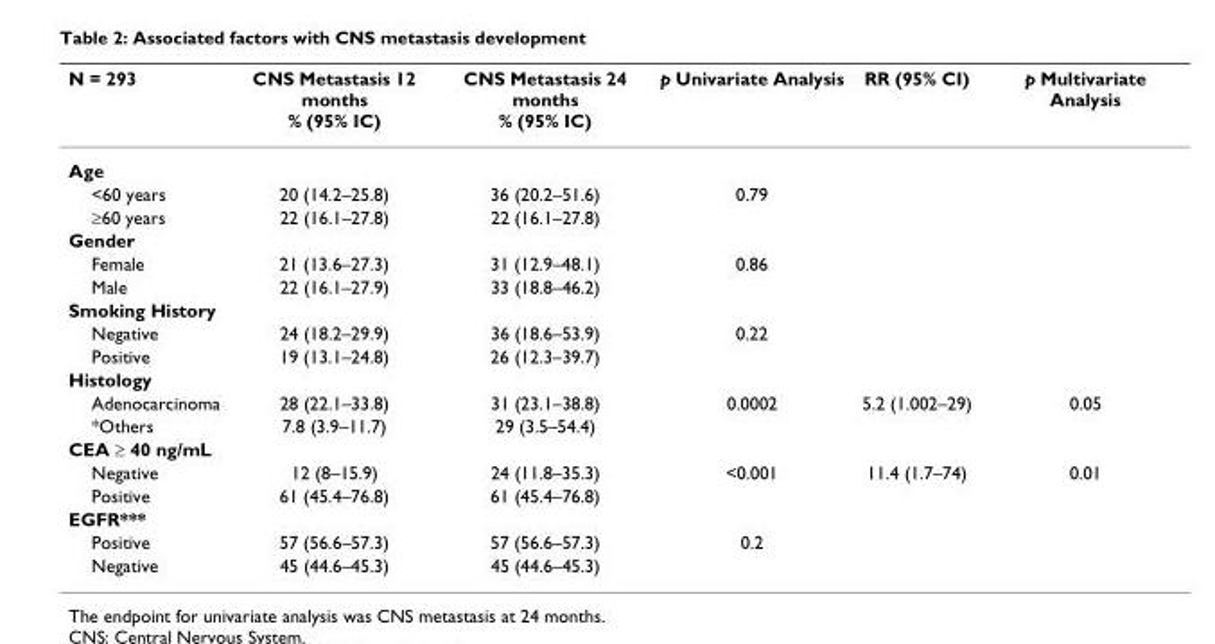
<table><thead><tr><td>N = 293</td><td>CNS Metastasis 12 months % (95% IC)</td><td>CNS Metastasis 24 months % (95% IC)</td><td>p Univariate Analysis</td><td>RR (95% CI)</td><td>p Multivariate Analysis</td></tr></thead><tbody><tr><td colspan="6">Age</td></tr><tr><td>&lt;60 years</td><td>20 (14.2–25.8)</td><td>36 (20.2–51.6)</td><td>0.79</td><td></td><td></td></tr><tr><td>≥60 years</td><td>22 (16.1–27.8)</td><td>22 (16.1–27.8)</td><td></td><td></td><td></td></tr><tr><td colspan="6">Gender</td></tr><tr><td>Female</td><td>21 (13.6–27.3)</td><td>31 (12.9–48.1)</td><td>0.86</td><td></td><td></td></tr><tr><td>Male</td><td>22 (16.1–27.9)</td><td>33 (18.8–46.2)</td><td></td><td></td><td></td></tr><tr><td colspan="6">Smoking History</td></tr><tr><td>Negative</td><td>24 (18.2–29.9)</td><td>36 (18.6–53.9)</td><td>0.22</td><td></td><td></td></tr><tr><td>Positive</td><td>19 (13.1–24.8)</td><td>26 (12.3–39.7)</td><td></td><td></td><td></td></tr><tr><td colspan="6">Histology</td></tr><tr><td>Adenocarcinoma</td><td>28 (22.1–33.8)</td><td>31 (23.1–38.8)</td><td>0.0002</td><td>5.2 (1.002–29)</td><td>0.05</td></tr><tr><td>*Others</td><td>7.8 (3.9–11.7)</td><td>29 (3.5–54.4)</td><td></td><td></td><td></td></tr><tr><td colspan="6">CEA ≥ 40 ng/mL</td></tr><tr><td>Negative</td><td>12 (8–15.9)</td><td>24 (11.8–35.3)</td><td>&lt;0.001</td><td>11.4 (1.7–74)</td><td>0.01</td></tr><tr><td>Positive</td><td>61 (45.4–76.8)</td><td>61 (45.4–76.8)</td><td></td><td></td><td></td></tr><tr><td colspan="6">EGFR***</td></tr><tr><td>Positive</td><td>57 (56.6–57.3)</td><td>57 (56.6–57.3)</td><td>0.2</td><td></td><td></td></tr><tr><td>Negative</td><td>45 (44.6–45.3)</td><td>45 (44.6–45.3)</td><td></td><td></td><td></td></tr></tbody></table>